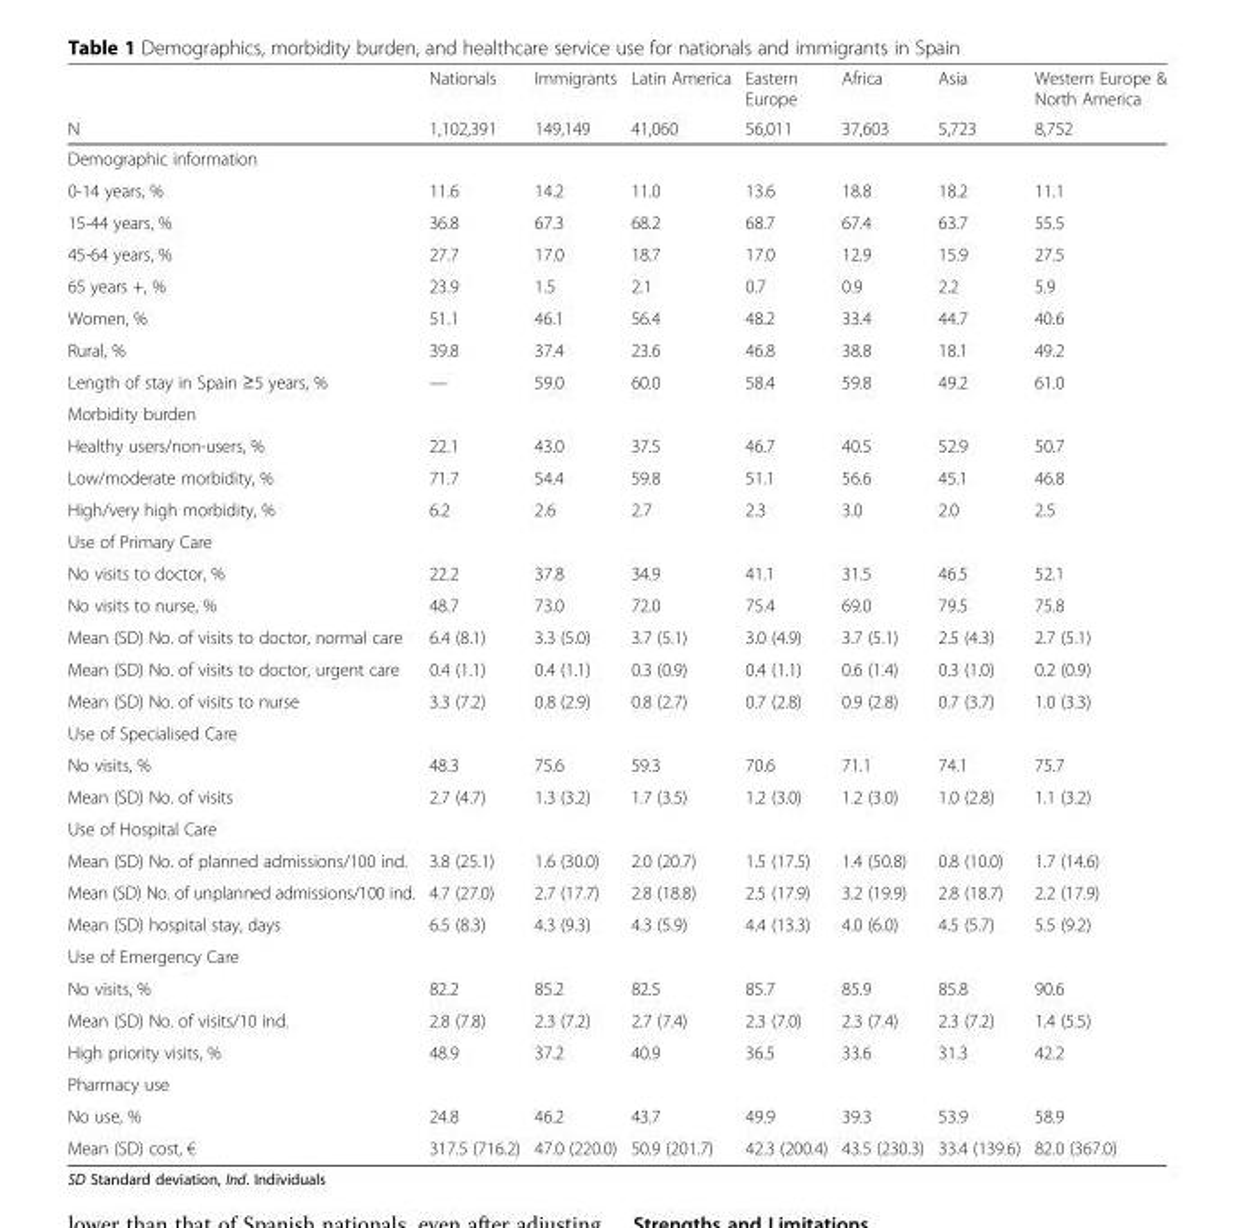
<table><thead><tr><td rowspan="2">N</td><td rowspan="2">Nationals 1,102,391</td><td rowspan="2">Immigrants 149,149</td><td rowspan="2">Latin America 41,060</td><td rowspan="2">Eastern Europe 56,011</td><td rowspan="2">Africa 37,603</td><td rowspan="2">Asia 5,723</td><td rowspan="2">Western Europe &amp; North America 8,752</td></tr><tr></tr></thead><tbody><tr><td colspan="8">Demographic information</td></tr><tr><td>0-14 years, %</td><td>11.6</td><td>14.2</td><td>11.0</td><td>13.6</td><td>18.8</td><td>18.2</td><td>11.1</td></tr><tr><td>15-44 years, %</td><td>36.8</td><td>67.3</td><td>68.2</td><td>68.7</td><td>67.4</td><td>63.7</td><td>55.5</td></tr><tr><td>45-64 years, %</td><td>27.7</td><td>17.0</td><td>18.7</td><td>17.0</td><td>12.9</td><td>15.9</td><td>27.5</td></tr><tr><td>65 years +, %</td><td>23.9</td><td>1.5</td><td>2.1</td><td>0.7</td><td>0.9</td><td>2.2</td><td>5.9</td></tr><tr><td>Women, %</td><td>51.1</td><td>46.1</td><td>56.4</td><td>48.2</td><td>33.4</td><td>44.7</td><td>40.6</td></tr><tr><td>Rural, %</td><td>39.8</td><td>37.4</td><td>23.6</td><td>46.8</td><td>38.8</td><td>18.1</td><td>49.2</td></tr><tr><td>Length of stay in Spain ≥5 years, %</td><td>—</td><td>59.0</td><td>60.0</td><td>58.4</td><td>59.8</td><td>49.2</td><td>61.0</td></tr><tr><td colspan="8">Morbidity burden</td></tr><tr><td>Healthy users/non-users, %</td><td>22.1</td><td>43.0</td><td>37.5</td><td>46.7</td><td>40.5</td><td>52.9</td><td>50.7</td></tr><tr><td>Low/moderate morbidity, %</td><td>71.7</td><td>54.4</td><td>59.8</td><td>51.1</td><td>56.6</td><td>45.1</td><td>46.8</td></tr><tr><td>High/very high morbidity, %</td><td>6.2</td><td>2.6</td><td>2.7</td><td>2.3</td><td>3.0</td><td>2.0</td><td>2.5</td></tr><tr><td colspan="8">Use of Primary Care</td></tr><tr><td>No visits to doctor, %</td><td>22.2</td><td>37.8</td><td>34.9</td><td>41.1</td><td>31.5</td><td>46.5</td><td>52.1</td></tr><tr><td>No visits to nurse, %</td><td>48.7</td><td>73.0</td><td>72.0</td><td>75.4</td><td>69.0</td><td>79.5</td><td>75.8</td></tr><tr><td>Mean (SD) No. of visits to doctor, normal care</td><td>6.4 (8.1)</td><td>3.3 (5.0)</td><td>3.7 (5.1)</td><td>3.0 (4.9)</td><td>3.7 (5.1)</td><td>2.5 (4.3)</td><td>2.7 (5.1)</td></tr><tr><td>Mean (SD) No. of visits to doctor, urgent care</td><td>0.4 (1.1)</td><td>0.4 (1.1)</td><td>0.3 (0.9)</td><td>0.4 (1.1)</td><td>0.6 (1.4)</td><td>0.3 (1.0)</td><td>0.2 (0.9)</td></tr><tr><td>Mean (SD) No. of visits to nurse</td><td>3.3 (7.2)</td><td>0.8 (2.9)</td><td>0.8 (2.7)</td><td>0.7 (2.8)</td><td>0.9 (2.8)</td><td>0.7 (3.7)</td><td>1.0 (3.3)</td></tr><tr><td colspan="8">Use of Specialised Care</td></tr><tr><td>No visits, %</td><td>48.3</td><td>75.6</td><td>59.3</td><td>70.6</td><td>71.1</td><td>74.1</td><td>75.7</td></tr><tr><td>Mean (SD) No. of visits</td><td>2.7 (4.7)</td><td>1.3 (3.2)</td><td>1.7 (3.5)</td><td>1.2 (3.0)</td><td>1.2 (3.0)</td><td>1.0 (2.8)</td><td>1.1 (3.2)</td></tr><tr><td colspan="8">Use of Hospital Care</td></tr><tr><td>Mean (SD) No. of planned admissions/100 ind.</td><td>3.8 (25.1)</td><td>1.6 (30.0)</td><td>2.0 (20.7)</td><td>1.5 (17.5)</td><td>1.4 (50.8)</td><td>0.8 (10.0)</td><td>1.7 (14.6)</td></tr><tr><td>Mean (SD) No. of unplanned admissions/100 ind.</td><td>4.7 (27.0)</td><td>2.7 (17.7)</td><td>2.8 (18.8)</td><td>2.5 (17.9)</td><td>3.2 (19.9)</td><td>2.8 (18.7)</td><td>2.2 (17.9)</td></tr><tr><td>Mean (SD) hospital stay, days</td><td>6.5 (8.3)</td><td>4.3 (9.3)</td><td>4.3 (5.9)</td><td>4.4 (13.3)</td><td>4.0 (6.0)</td><td>4.5 (5.7)</td><td>5.5 (9.2)</td></tr><tr><td colspan="8">Use of Emergency Care</td></tr><tr><td>No visits, %</td><td>82.2</td><td>85.2</td><td>82.5</td><td>85.7</td><td>85.9</td><td>85.8</td><td>90.6</td></tr><tr><td>Mean (SD) No. of visits/10 ind.</td><td>2.8 (7.8)</td><td>2.3 (7.2)</td><td>2.7 (7.4)</td><td>2.3 (7.0)</td><td>2.3 (7.4)</td><td>2.3 (7.2)</td><td>1.4 (5.5)</td></tr><tr><td>High priority visits, %</td><td>48.9</td><td>37.2</td><td>40.9</td><td>36.5</td><td>33.6</td><td>31.3</td><td>42.2</td></tr><tr><td colspan="8">Pharmacy use</td></tr><tr><td>No use, %</td><td>24.8</td><td>46.2</td><td>43.7</td><td>49.9</td><td>39.3</td><td>53.9</td><td>58.9</td></tr><tr><td>Mean (SD) cost, €</td><td>317.5 (716.2)</td><td>47.0 (220.0)</td><td>50.9 (201.7)</td><td>42.3 (200.4)</td><td>43.5 (230.3)</td><td>33.4 (139.6)</td><td>82.0 (367.0)</td></tr></tbody></table>